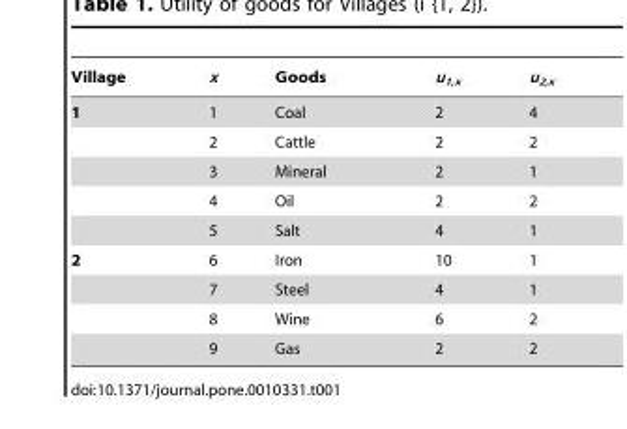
<table><thead><tr><td>Village</td><td>x</td><td>Goods</td><td>u<sub>1,x</sub></td><td>u<sub>2,x</sub></td></tr></thead><tbody><tr><td rowspan="5">1</td><td>1</td><td>Coal</td><td>2</td><td>4</td></tr><tr><td>2</td><td>Cattle</td><td>2</td><td>2</td></tr><tr><td>3</td><td>Mineral</td><td>2</td><td>1</td></tr><tr><td>4</td><td>Oil</td><td>2</td><td>2</td></tr><tr><td>5</td><td>Salt</td><td>4</td><td>1</td></tr><tr><td rowspan="4">2</td><td>6</td><td>Iron</td><td>10</td><td>1</td></tr><tr><td>7</td><td>Steel</td><td>4</td><td>1</td></tr><tr><td>8</td><td>Wine</td><td>6</td><td>2</td></tr><tr><td>9</td><td>Gas</td><td>2</td><td>2</td></tr></tbody></table>